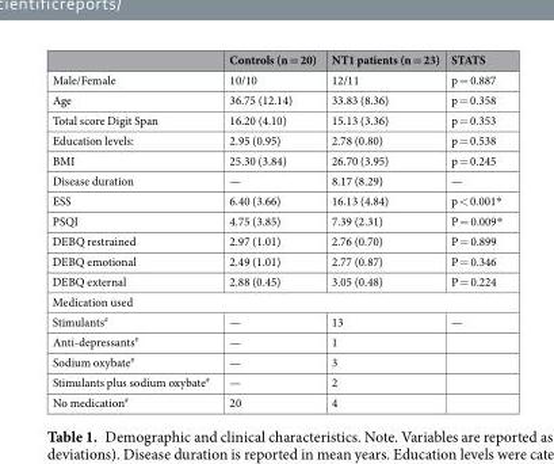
<table><thead><tr><td></td><td>Controls (n = 20)</td><td>NT1 patients (n = 23)</td><td>STATS</td></tr></thead><tbody><tr><td>Male/Female</td><td>10/10</td><td>12/11</td><td>p = 0.887</td></tr><tr><td>Age</td><td>36.75 (12.14)</td><td>33.83 (8.36)</td><td>p = 0.358</td></tr><tr><td>Total score Digit Span</td><td>16.20 (4.10)</td><td>15.13 (3.36)</td><td>p = 0.353</td></tr><tr><td>Education levels:</td><td>2.95 (0.95)</td><td>2.78 (0.80)</td><td>p = 0.538</td></tr><tr><td>BMI</td><td>25.30 (3.84)</td><td>26.70 (3.95)</td><td>p = 0.245</td></tr><tr><td>Disease duration</td><td>—</td><td>8.17 (8.29)</td><td>—</td></tr><tr><td>ESS</td><td>6.40 (3.66)</td><td>16.13 (4.84)</td><td>p &lt; 0.001*</td></tr><tr><td>PSQI</td><td>4.75 (3.85)</td><td>7.39 (2.31)</td><td>P = 0.009*</td></tr><tr><td>DEBQ restrained</td><td>2.97 (1.01)</td><td>2.76 (0.70)</td><td>P = 0.899</td></tr><tr><td>DEBQ emotional</td><td>2.49 (1.01)</td><td>2.77 (0.87)</td><td>P = 0.346</td></tr><tr><td>DEBQ external</td><td>2.88 (0.45)</td><td>3.05 (0.48)</td><td>P = 0.224</td></tr><tr><td colspan="4">Medication used</td></tr><tr><td>Stimulants<sup>#</sup></td><td>—</td><td>13</td><td>—</td></tr><tr><td>Anti-depressants<sup>#</sup></td><td>—</td><td>1</td><td></td></tr><tr><td>Sodium oxybate<sup>#</sup></td><td>—</td><td>3</td><td></td></tr><tr><td>Stimulants plus sodium oxybate<sup>#</sup></td><td>—</td><td>2</td><td></td></tr><tr><td>No medication<sup>#</sup></td><td>20</td><td>4</td><td></td></tr></tbody></table>